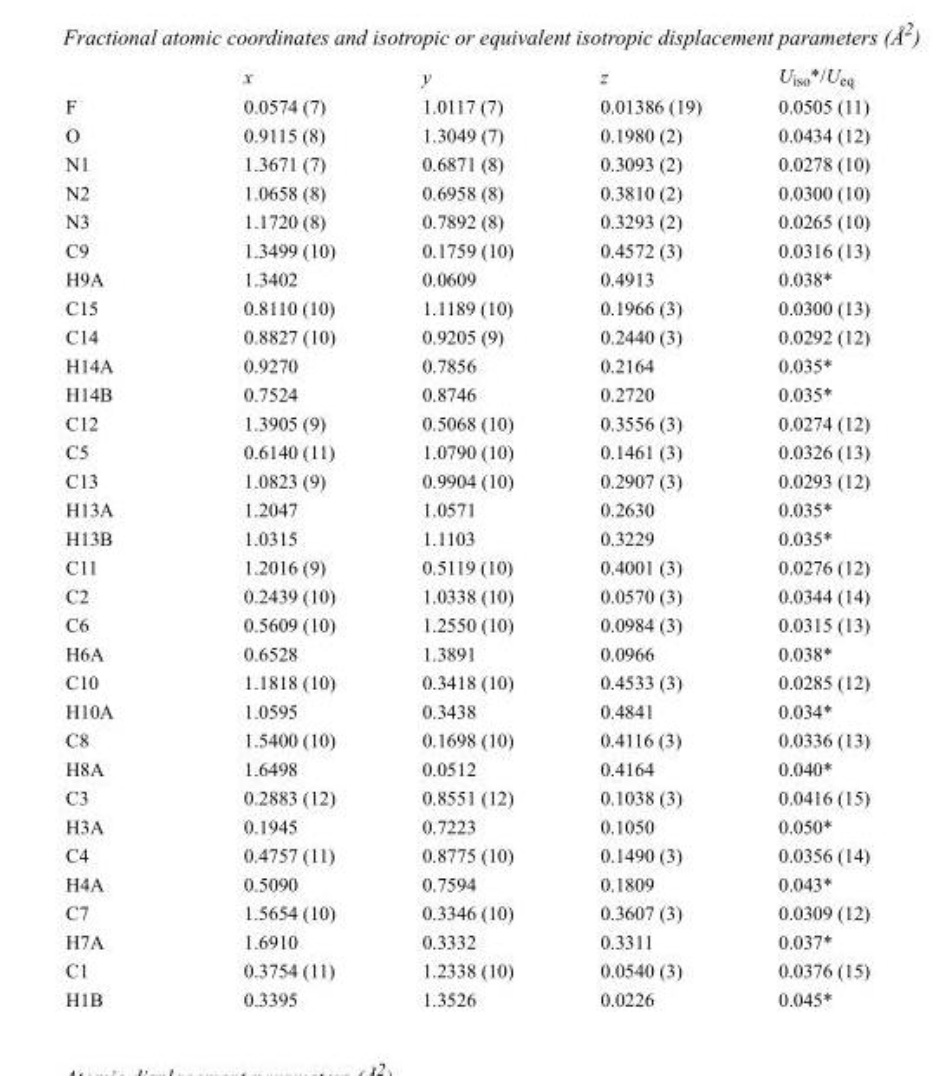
<table><thead><tr><td></td><td>x</td><td>y</td><td>z</td><td>U<sub>iso</sub>*/U<sub>eq</sub></td></tr></thead><tbody><tr><td>F</td><td>0.0574 (7)</td><td>1.0117 (7)</td><td>0.01386 (19)</td><td>0.0505 (11)</td></tr><tr><td>O</td><td>0.9115 (8)</td><td>1.3049 (7)</td><td>0.1980 (2)</td><td>0.0434 (12)</td></tr><tr><td>N1</td><td>1.3671 (7)</td><td>0.6871 (8)</td><td>0.3093 (2)</td><td>0.0278 (10)</td></tr><tr><td>N2</td><td>1.0658 (8)</td><td>0.6958 (8)</td><td>0.3810 (2)</td><td>0.0300 (10)</td></tr><tr><td>N3</td><td>1.1720 (8)</td><td>0.7892 (8)</td><td>0.3293 (2)</td><td>0.0265 (10)</td></tr><tr><td>C9</td><td>1.3499 (10)</td><td>0.1759 (10)</td><td>0.4572 (3)</td><td>0.0316 (13)</td></tr><tr><td>H9A</td><td>1.3402</td><td>0.0609</td><td>0.4913</td><td>0.038*</td></tr><tr><td>C15</td><td>0.8110 (10)</td><td>1.1189 (10)</td><td>0.1966 (3)</td><td>0.0300 (13)</td></tr><tr><td>C14</td><td>0.8827 (10)</td><td>0.9205 (9)</td><td>0.2440 (3)</td><td>0.0292 (12)</td></tr><tr><td>H14A</td><td>0.9270</td><td>0.7856</td><td>0.2164</td><td>0.035*</td></tr><tr><td>H14B</td><td>0.7524</td><td>0.8746</td><td>0.2720</td><td>0.035*</td></tr><tr><td>C12</td><td>1.3905 (9)</td><td>0.5068 (10)</td><td>0.3556 (3)</td><td>0.0274 (12)</td></tr><tr><td>C5</td><td>0.6140 (11)</td><td>1.0790 (10)</td><td>0.1461 (3)</td><td>0.0326 (13)</td></tr><tr><td>C13</td><td>1.0823 (9)</td><td>0.9904 (10)</td><td>0.2907 (3)</td><td>0.0293 (12)</td></tr><tr><td>H13A</td><td>1.2047</td><td>1.0571</td><td>0.2630</td><td>0.035*</td></tr><tr><td>H13B</td><td>1.0315</td><td>1.1103</td><td>0.3229</td><td>0.035*</td></tr><tr><td>C11</td><td>1.2016 (9)</td><td>0.5119 (10)</td><td>0.4001 (3)</td><td>0.0276 (12)</td></tr><tr><td>C2</td><td>0.2439 (10)</td><td>1.0338 (10)</td><td>0.0570 (3)</td><td>0.0344 (14)</td></tr><tr><td>C6</td><td>0.5609 (10)</td><td>1.2550 (10)</td><td>0.0984 (3)</td><td>0.0315 (13)</td></tr><tr><td>H6A</td><td>0.6528</td><td>1.3891</td><td>0.0966</td><td>0.038*</td></tr><tr><td>C10</td><td>1.1818 (10)</td><td>0.3418 (10)</td><td>0.4533 (3)</td><td>0.0285 (12)</td></tr><tr><td>H10A</td><td>1.0595</td><td>0.3438</td><td>0.4841</td><td>0.034*</td></tr><tr><td>C8</td><td>1.5400 (10)</td><td>0.1698 (10)</td><td>0.4116 (3)</td><td>0.0336 (13)</td></tr><tr><td>H8A</td><td>1.6498</td><td>0.0512</td><td>0.4164</td><td>0.040*</td></tr><tr><td>C3</td><td>0.2883 (12)</td><td>0.8551 (12)</td><td>0.1038 (3)</td><td>0.0416 (15)</td></tr><tr><td>H3A</td><td>0.1945</td><td>0.7223</td><td>0.1050</td><td>0.050*</td></tr><tr><td>C4</td><td>0.4757 (11)</td><td>0.8775 (10)</td><td>0.1490 (3)</td><td>0.0356 (14)</td></tr><tr><td>H4A</td><td>0.5090</td><td>0.7594</td><td>0.1809</td><td>0.043*</td></tr><tr><td>C7</td><td>1.5654 (10)</td><td>0.3346 (10)</td><td>0.3607 (3)</td><td>0.0309 (12)</td></tr><tr><td>H7A</td><td>1.6910</td><td>0.3332</td><td>0.3311</td><td>0.037*</td></tr><tr><td>C1</td><td>0.3754 (11)</td><td>1.2338 (10)</td><td>0.0540 (3)</td><td>0.0376 (15)</td></tr><tr><td>H1B</td><td>0.3395</td><td>1.3526</td><td>0.0226</td><td>0.045*</td></tr></tbody></table>